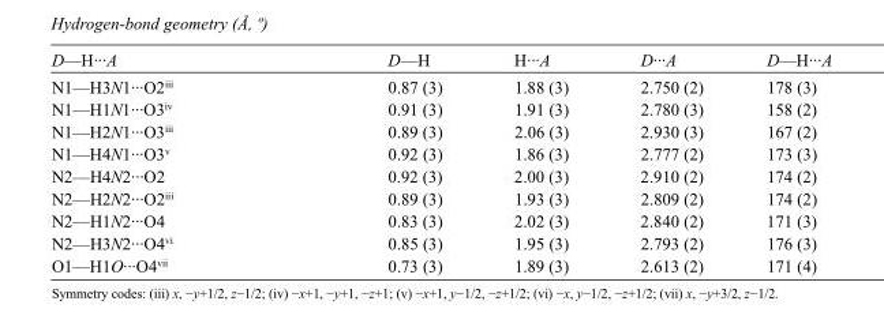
<table><tbody><tr><td>D—H···A</td><td>D—H</td><td>H···A</td><td>D···A</td><td>D—H···A</td></tr><tr><td>N1—H3N1···O2<sup>iii</sup></td><td>0.87 (3)</td><td>1.88 (3)</td><td>2.750 (2)</td><td>178 (3)</td></tr><tr><td>N1—H1N1···O3<sup>iv</sup></td><td>0.91 (3)</td><td>1.91 (3)</td><td>2.780 (3)</td><td>158 (2)</td></tr><tr><td>N1—H2N1···O3<sup>iii</sup></td><td>0.89 (3)</td><td>2.06 (3)</td><td>2.930 (3)</td><td>167 (2)</td></tr><tr><td>N1—H4N1···O3<sup>v</sup></td><td>0.92 (3)</td><td>1.86 (3)</td><td>2.777 (2)</td><td>173 (3)</td></tr><tr><td>N2—H4N2···O2</td><td>0.92 (3)</td><td>2.00 (3)</td><td>2.910 (2)</td><td>174 (2)</td></tr><tr><td>N2—H2N2···O2<sup>iii</sup></td><td>0.89 (3)</td><td>1.93 (3)</td><td>2.809 (2)</td><td>174 (2)</td></tr><tr><td>N2—H1N2···O4</td><td>0.83 (3)</td><td>2.02 (3)</td><td>2.840 (2)</td><td>171 (3)</td></tr><tr><td>N2—H3N2···O4<sup>vi</sup></td><td>0.85 (3)</td><td>1.95 (3)</td><td>2.793 (2)</td><td>176 (3)</td></tr><tr><td>O1—H1O···O4<sup>vii</sup></td><td>0.73 (3)</td><td>1.89 (3)</td><td>2.613 (2)</td><td>171 (4)</td></tr></tbody></table>